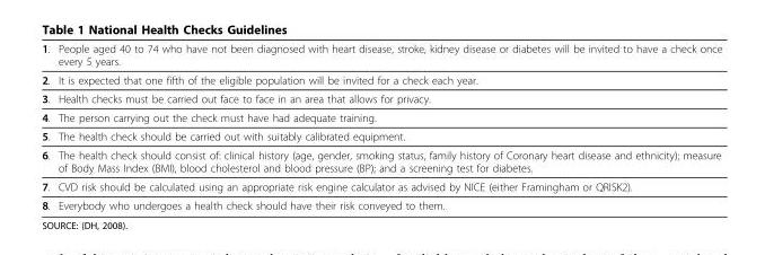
<table><thead><tr><td>1.</td><td>People aged 40 to 74 who have not been diagnosed with heart disease, stroke, kidney disease or diabetes will be invited to have a check once every 5 years.</td></tr></thead><tbody><tr><td>2.</td><td>It is expected that one fifth of the eligible population will be invited for a check each year.</td></tr><tr><td>3.</td><td>Health checks must be carried out face to face in an area that allows for privacy.</td></tr><tr><td>4.</td><td>The person carrying out the check must have had adequate training.</td></tr><tr><td>5.</td><td>The health check should be carried out with suitably calibrated equipment.</td></tr><tr><td>6.</td><td>The health check should consist of: clinical history (age, gender, smoking status, family history of Coronary heart disease and ethnicity); measure of Body Mass Index (BMI), blood cholesterol and blood pressure (BP); and a screening test for diabetes.</td></tr><tr><td>7.</td><td>CVD risk should be calculated using an appropriate risk engine calculator as advised by NICE (either Framingham or QRISK2).</td></tr><tr><td>8.</td><td>Everybody who undergoes a health check should have their risk conveyed to them.</td></tr></tbody></table>